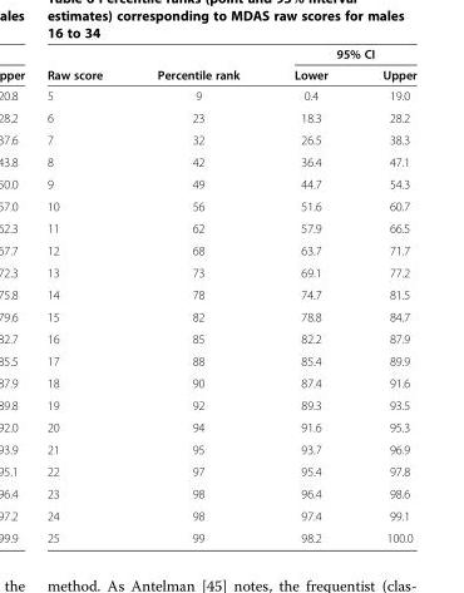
<table><thead><tr><td rowspan="2">Raw score</td><td rowspan="2">Percentile rank</td><td colspan="2">95% CI</td></tr><tr><td>Lower</td><td>Upper</td></tr></thead><tbody><tr><td>5</td><td>9</td><td>0.4</td><td>19.0</td></tr><tr><td>6</td><td>23</td><td>18.3</td><td>28.2</td></tr><tr><td>7</td><td>32</td><td>26.5</td><td>38.3</td></tr><tr><td>8</td><td>42</td><td>36.4</td><td>47.1</td></tr><tr><td>9</td><td>49</td><td>44.7</td><td>54.3</td></tr><tr><td>10</td><td>56</td><td>51.6</td><td>60.7</td></tr><tr><td>11</td><td>62</td><td>57.9</td><td>66.5</td></tr><tr><td>12</td><td>68</td><td>63.7</td><td>71.7</td></tr><tr><td>13</td><td>73</td><td>69.1</td><td>77.2</td></tr><tr><td>14</td><td>78</td><td>74.7</td><td>81.5</td></tr><tr><td>15</td><td>82</td><td>78.8</td><td>84.7</td></tr><tr><td>16</td><td>85</td><td>82.2</td><td>87.9</td></tr><tr><td>17</td><td>88</td><td>85.4</td><td>89.9</td></tr><tr><td>18</td><td>90</td><td>87.4</td><td>91.6</td></tr><tr><td>19</td><td>92</td><td>89.3</td><td>93.5</td></tr><tr><td>20</td><td>94</td><td>91.6</td><td>95.3</td></tr><tr><td>21</td><td>95</td><td>93.7</td><td>96.9</td></tr><tr><td>22</td><td>97</td><td>95.4</td><td>97.8</td></tr><tr><td>23</td><td>98</td><td>96.4</td><td>98.6</td></tr><tr><td>24</td><td>98</td><td>97.4</td><td>99.1</td></tr><tr><td>25</td><td>99</td><td>98.2</td><td>100.0</td></tr></tbody></table>